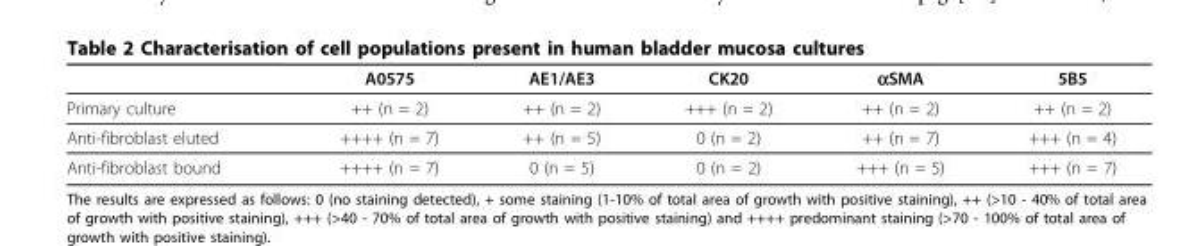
<table><thead><tr><td></td><td>A0575</td><td>AE1/AE3</td><td>CK20</td><td>αSMA</td><td>5B5</td></tr></thead><tbody><tr><td>Primary culture</td><td>++ (n = 2)</td><td>++ (n = 2)</td><td>+++ (n = 2)</td><td>++ (n = 2)</td><td>++ (n = 2)</td></tr><tr><td>Anti-fibroblast eluted</td><td>++++ (n = 7)</td><td>++ (n = 5)</td><td>0 (n = 2)</td><td>++ (n = 7)</td><td>+++ (n = 4)</td></tr><tr><td>Anti-fibroblast bound</td><td>++++ (n = 7)</td><td>0 (n = 5)</td><td>0 (n = 2)</td><td>+++ (n = 5)</td><td>+++ (n = 7)</td></tr></tbody></table>